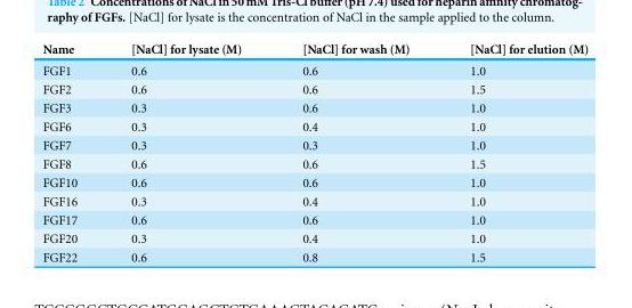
<table><thead><tr><td>Name</td><td>[NaCl] for lysate (M)</td><td>[NaCl] for wash (M)</td><td>[NaCl] for elution (M)</td></tr></thead><tbody><tr><td>FGF1</td><td>0.6</td><td>0.6</td><td>1.0</td></tr><tr><td>FGF2</td><td>0.6</td><td>0.6</td><td>1.5</td></tr><tr><td>FGF3</td><td>0.3</td><td>0.6</td><td>1.0</td></tr><tr><td>FGF6</td><td>0.3</td><td>0.4</td><td>1.0</td></tr><tr><td>FGF7</td><td>0.3</td><td>0.3</td><td>1.0</td></tr><tr><td>FGF8</td><td>0.6</td><td>0.6</td><td>1.5</td></tr><tr><td>FGF10</td><td>0.6</td><td>0.6</td><td>1.0</td></tr><tr><td>FGF16</td><td>0.3</td><td>0.4</td><td>1.0</td></tr><tr><td>FGF17</td><td>0.6</td><td>0.6</td><td>1.0</td></tr><tr><td>FGF20</td><td>0.3</td><td>0.4</td><td>1.0</td></tr><tr><td>FGF22</td><td>0.6</td><td>0.8</td><td>1.5</td></tr></tbody></table>